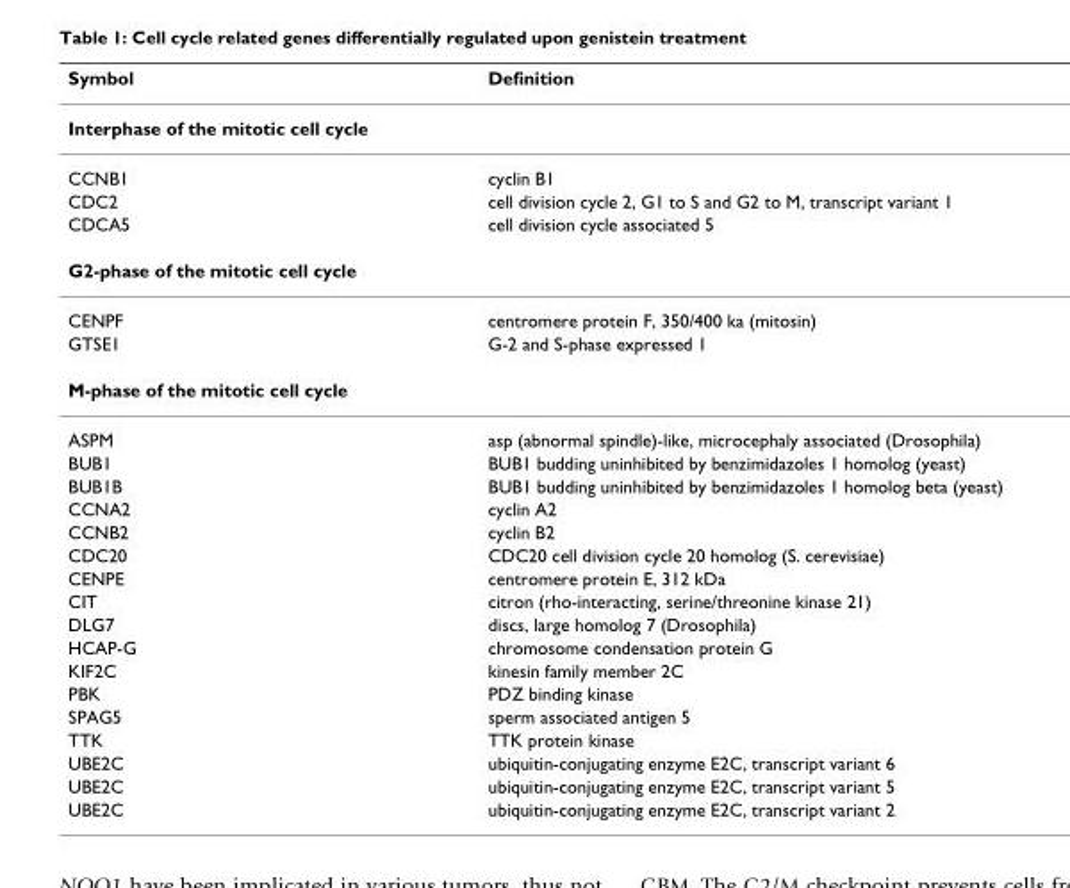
<table><thead><tr><td>Symbol</td><td>Definition</td></tr></thead><tbody><tr><td colspan="2">Interphase of the mitotic cell cycle</td></tr><tr><td>CCNB1</td><td>cyclin B1</td></tr><tr><td>CDC2</td><td>cell division cycle 2, G1 to S and G2 to M, transcript variant 1</td></tr><tr><td>CDCA5</td><td>cell division cycle associated 5</td></tr><tr><td colspan="2">G2-phase of the mitotic cell cycle</td></tr><tr><td>CENPF</td><td>centromere protein F, 350/400 ka (mitosin)</td></tr><tr><td>GTSE1</td><td>G-2 and S-phase expressed 1</td></tr><tr><td colspan="2">M-phase of the mitotic cell cycle</td></tr><tr><td>ASPM</td><td>asp (abnormal spindle)-like, microcephaly associated (Drosophila)</td></tr><tr><td>BUB1</td><td>BUB1 budding uninhibited by benzimidazoles 1 homolog (yeast)</td></tr><tr><td>BUB1B</td><td>BUB1 budding uninhibited by benzimidazoles 1 homolog beta (yeast)</td></tr><tr><td>CCNA2</td><td>cyclin A2</td></tr><tr><td>CCNB2</td><td>cyclin B2</td></tr><tr><td>CDC20</td><td>CDC20 cell division cycle 20 homolog (S. cerevisiae)</td></tr><tr><td>CENPE</td><td>centromere protein E, 312 kDa</td></tr><tr><td>CIT</td><td>citron (rho-interacting, serine/threonine kinase 21)</td></tr><tr><td>DLG7</td><td>discs, large homolog 7 (Drosophila)</td></tr><tr><td>HCAP-G</td><td>chromosome condensation protein G</td></tr><tr><td>KIF2C</td><td>kinesin family member 2C</td></tr><tr><td>PBK</td><td>PDZ binding kinase</td></tr><tr><td>SPAG5</td><td>sperm associated antigen 5</td></tr><tr><td>TTK</td><td>TTK protein kinase</td></tr><tr><td>UBE2C</td><td>ubiquitin-conjugating enzyme E2C, transcript variant 6</td></tr><tr><td>UBE2C</td><td>ubiquitin-conjugating enzyme E2C, transcript variant 5</td></tr><tr><td>UBE2C</td><td>ubiquitin-conjugating enzyme E2C, transcript variant 2</td></tr></tbody></table>